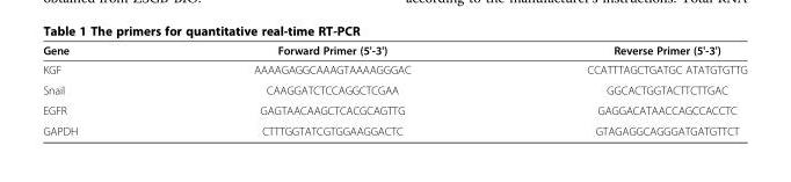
<table><thead><tr><td>Gene</td><td>Forward Primer (5&#x27;-3&#x27;)</td><td>Reverse Primer (5&#x27;-3&#x27;)</td></tr></thead><tbody><tr><td>KGF</td><td>AAAAGAGGCAAAGTAAAAGGGAC</td><td>CCATTTAGCTGATGC ATATGTGTTG</td></tr><tr><td>Snail</td><td>CAAGGATCTCCAGGCTCGAA</td><td>GGCACTGGTACTTCTTGAC</td></tr><tr><td>EGFR</td><td>GAGTAACAAGCTCACGCAGTTG</td><td>GAGGACATAACCAGCCACCTC</td></tr><tr><td>GAPDH</td><td>CTTTGGTATCGTGGAAGGACTC</td><td>GTAGAGGCAGGGATGATGTTCT</td></tr></tbody></table>